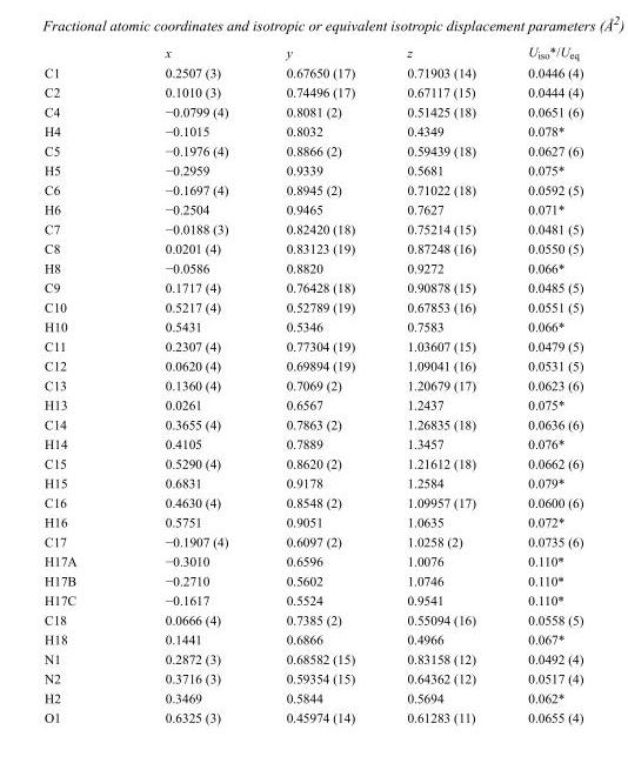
<table><thead><tr><td></td><td>x</td><td>y</td><td>z</td><td>U<sub>iso</sub>*/U<sub>eq</sub></td></tr></thead><tbody><tr><td>C1</td><td>0.2507 (3)</td><td>0.67650 (17)</td><td>0.71903 (14)</td><td>0.0446 (4)</td></tr><tr><td>C2</td><td>0.1010 (3)</td><td>0.74496 (17)</td><td>0.67117 (15)</td><td>0.0444 (4)</td></tr><tr><td>C4</td><td>−0.0799 (4)</td><td>0.8081 (2)</td><td>0.51425 (18)</td><td>0.0651 (6)</td></tr><tr><td>H4</td><td>−0.1015</td><td>0.8032</td><td>0.4349</td><td>0.078*</td></tr><tr><td>C5</td><td>−0.1976 (4)</td><td>0.8866 (2)</td><td>0.59439 (18)</td><td>0.0627 (6)</td></tr><tr><td>H5</td><td>−0.2959</td><td>0.9339</td><td>0.5681</td><td>0.075*</td></tr><tr><td>C6</td><td>−0.1697 (4)</td><td>0.8945 (2)</td><td>0.71022 (18)</td><td>0.0592 (5)</td></tr><tr><td>H6</td><td>−0.2504</td><td>0.9465</td><td>0.7627</td><td>0.071*</td></tr><tr><td>C7</td><td>−0.0188 (3)</td><td>0.82420 (18)</td><td>0.75214 (15)</td><td>0.0481 (5)</td></tr><tr><td>C8</td><td>0.0201 (4)</td><td>0.83123 (19)</td><td>0.87248 (16)</td><td>0.0550 (5)</td></tr><tr><td>H8</td><td>−0.0586</td><td>0.8820</td><td>0.9272</td><td>0.066*</td></tr><tr><td>C9</td><td>0.1717 (4)</td><td>0.76428 (18)</td><td>0.90878 (15)</td><td>0.0485 (5)</td></tr><tr><td>C10</td><td>0.5217 (4)</td><td>0.52789 (19)</td><td>0.67853 (16)</td><td>0.0551 (5)</td></tr><tr><td>H10</td><td>0.5431</td><td>0.5346</td><td>0.7583</td><td>0.066*</td></tr><tr><td>C11</td><td>0.2307 (4)</td><td>0.77304 (19)</td><td>1.03607 (15)</td><td>0.0479 (5)</td></tr><tr><td>C12</td><td>0.0620 (4)</td><td>0.69894 (19)</td><td>1.09041 (16)</td><td>0.0531 (5)</td></tr><tr><td>C13</td><td>0.1360 (4)</td><td>0.7069 (2)</td><td>1.20679 (17)</td><td>0.0623 (6)</td></tr><tr><td>H13</td><td>0.0261</td><td>0.6567</td><td>1.2437</td><td>0.075*</td></tr><tr><td>C14</td><td>0.3655 (4)</td><td>0.7863 (2)</td><td>1.26835 (18)</td><td>0.0636 (6)</td></tr><tr><td>H14</td><td>0.4105</td><td>0.7889</td><td>1.3457</td><td>0.076*</td></tr><tr><td>C15</td><td>0.5290 (4)</td><td>0.8620 (2)</td><td>1.21612 (18)</td><td>0.0662 (6)</td></tr><tr><td>H15</td><td>0.6831</td><td>0.9178</td><td>1.2584</td><td>0.079*</td></tr><tr><td>C16</td><td>0.4630 (4)</td><td>0.8548 (2)</td><td>1.09957 (17)</td><td>0.0600 (6)</td></tr><tr><td>H16</td><td>0.5751</td><td>0.9051</td><td>1.0635</td><td>0.072*</td></tr><tr><td>C17</td><td>−0.1907 (4)</td><td>0.6097 (2)</td><td>1.0258 (2)</td><td>0.0735 (6)</td></tr><tr><td>H17A</td><td>−0.3010</td><td>0.6596</td><td>1.0076</td><td>0.110*</td></tr><tr><td>H17B</td><td>−0.2710</td><td>0.5602</td><td>1.0746</td><td>0.110*</td></tr><tr><td>H17C</td><td>−0.1617</td><td>0.5524</td><td>0.9541</td><td>0.110*</td></tr><tr><td>C18</td><td>0.0666 (4)</td><td>0.7385 (2)</td><td>0.55094 (16)</td><td>0.0558 (5)</td></tr><tr><td>H18</td><td>0.1441</td><td>0.6866</td><td>0.4966</td><td>0.067*</td></tr><tr><td>N1</td><td>0.2872 (3)</td><td>0.68582 (15)</td><td>0.83158 (12)</td><td>0.0492 (4)</td></tr><tr><td>N2</td><td>0.3716 (3)</td><td>0.59354 (15)</td><td>0.64362 (12)</td><td>0.0517 (4)</td></tr><tr><td>H2</td><td>0.3469</td><td>0.5844</td><td>0.5694</td><td>0.062*</td></tr><tr><td>O1</td><td>0.6325 (3)</td><td>0.45974 (14)</td><td>0.61283 (11)</td><td>0.0655 (4)</td></tr></tbody></table>